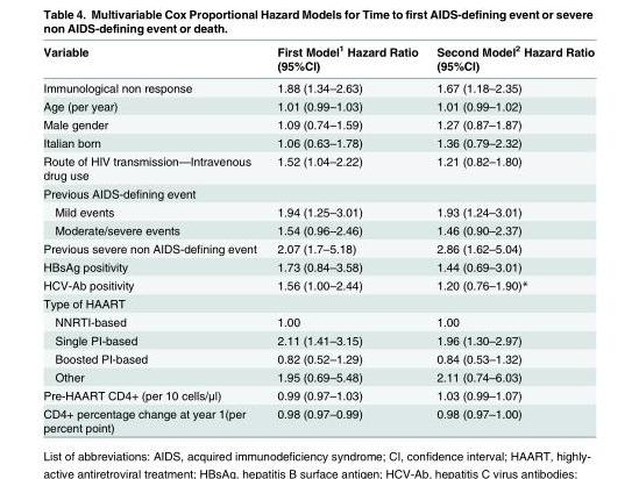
<table><thead><tr><td>Variable</td><td>First Model<sup>1</sup> Hazard Ratio (95%CI)</td><td>Second Model<sup>2</sup> Hazard Ratio (95%CI)</td></tr></thead><tbody><tr><td>Immunological non response</td><td>1.88 (1.34–2.63)</td><td>1.67 (1.18–2.35)</td></tr><tr><td>Age (per year)</td><td>1.01 (0.99–1.03)</td><td>1.01 (0.99–1.02)</td></tr><tr><td>Male gender</td><td>1.09 (0.74–1.59)</td><td>1.27 (0.87–1.87)</td></tr><tr><td>Italian born</td><td>1.06 (0.63–1.78)</td><td>1.36 (0.79–2.32)</td></tr><tr><td>Route of HIV transmission—Intravenous drug use</td><td>1.52 (1.04–2.22)</td><td>1.21 (0.82–1.80)</td></tr><tr><td colspan="3">Previous AIDS-defining event</td></tr><tr><td>Mild events</td><td>1.94 (1.25–3.01)</td><td>1.93 (1.24–3.01)</td></tr><tr><td>Moderate/severe events</td><td>1.54 (0.96–2.46)</td><td>1.46 (0.90–2.37)</td></tr><tr><td>Previous severe non AIDS-defining event</td><td>2.07 (1.7–5.18)</td><td>2.86 (1.62–5.04)</td></tr><tr><td>HBsAg positivity</td><td>1.73 (0.84–3.58)</td><td>1.44 (0.69–3.01)</td></tr><tr><td>HCV-Ab positivity</td><td>1.56 (1.00–2.44)</td><td>1.20 (0.76–1.90)*</td></tr><tr><td colspan="3">Type of HAART</td></tr><tr><td>NNRTI-based</td><td>1.00</td><td>1.00</td></tr><tr><td>Single PI-based</td><td>2.11 (1.41–3.15)</td><td>1.96 (1.30–2.97)</td></tr><tr><td>Boosted PI-based</td><td>0.82 (0.52–1.29)</td><td>0.84 (0.53–1.32)</td></tr><tr><td>Other</td><td>1.95 (0.69–5.48)</td><td>2.11 (0.74–6.03)</td></tr><tr><td>Pre-HAART CD4+ (per 10 cells/μl)</td><td>0.99 (0.97–1.03)</td><td>1.03 (0.99–1.07)</td></tr><tr><td>CD4+ percentage change at year 1(per percent point)</td><td>0.98 (0.97–0.99)</td><td>0.98 (0.97–1.00)</td></tr></tbody></table>